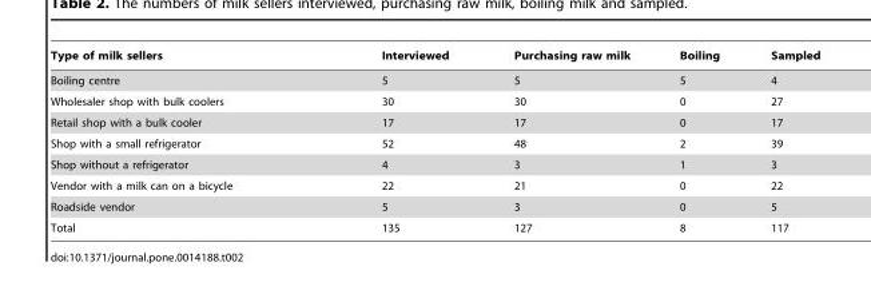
<table><thead><tr><td>Type of milk sellers</td><td>Interviewed</td><td>Purchasing raw milk</td><td>Boiling</td><td>Sampled</td></tr></thead><tbody><tr><td>Boiling centre</td><td>5</td><td>5</td><td>5</td><td>4</td></tr><tr><td>Wholesaler shop with bulk coolers</td><td>30</td><td>30</td><td>0</td><td>27</td></tr><tr><td>Retail shop with a bulk cooler</td><td>17</td><td>17</td><td>0</td><td>17</td></tr><tr><td>Shop with a small refrigerator</td><td>52</td><td>48</td><td>2</td><td>39</td></tr><tr><td>Shop without a refrigerator</td><td>4</td><td>3</td><td>1</td><td>3</td></tr><tr><td>Vendor with a milk can on a bicycle</td><td>22</td><td>21</td><td>0</td><td>22</td></tr><tr><td>Roadside vendor</td><td>5</td><td>3</td><td>0</td><td>5</td></tr><tr><td>Total</td><td>135</td><td>127</td><td>8</td><td>117</td></tr></tbody></table>